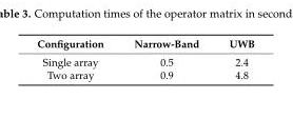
<table><thead><tr><td>Configuration</td><td>Narrow-Band</td><td>UWB</td></tr></thead><tbody><tr><td>Single array</td><td>0.5</td><td>2.4</td></tr><tr><td>Two array</td><td>0.9</td><td>4.8</td></tr></tbody></table>